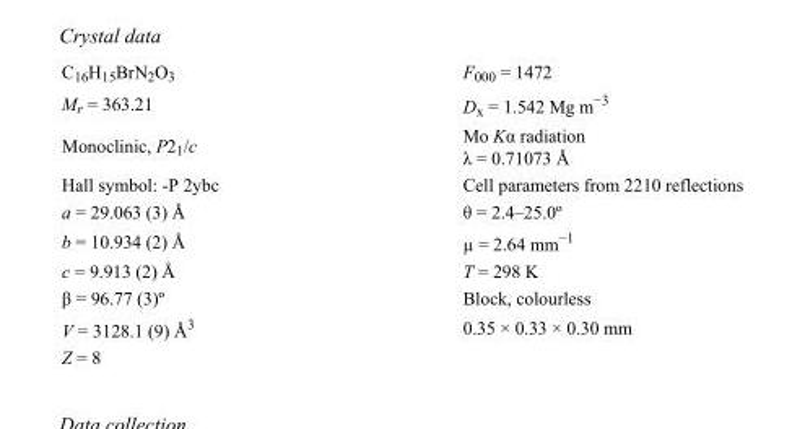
<table><tbody><tr><td>C<sub>16</sub>H<sub>15</sub>BrN<sub>2</sub>O<sub>3</sub></td><td>F000 = 1472</td></tr><tr><td>M<sub>r</sub> = 363.21</td><td>D<sub>x</sub> = 1.542 Mg m<sup>−3</sup></td></tr><tr><td>Monoclinic, P2<sub>1</sub>/c</td><td>Mo Kα radiation λ = 0.71073 Å</td></tr><tr><td>Hall symbol: -P 2ybc</td><td>Cell parameters from 2210 reflections</td></tr><tr><td>a = 29.063 (3) Å</td><td>θ = 2.4–25.0º</td></tr><tr><td>b = 10.934 (2) Å</td><td>µ = 2.64 mm<sup>−1</sup></td></tr><tr><td>c = 9.913 (2) Å</td><td>T = 298 K</td></tr><tr><td>β = 96.77 (3)º</td><td>Block, colourless</td></tr><tr><td>V = 3128.1 (9) Å<sup>3</sup></td><td>0.35 × 0.33 × 0.30 mm</td></tr><tr><td>Z = 8</td><td></td></tr></tbody></table>